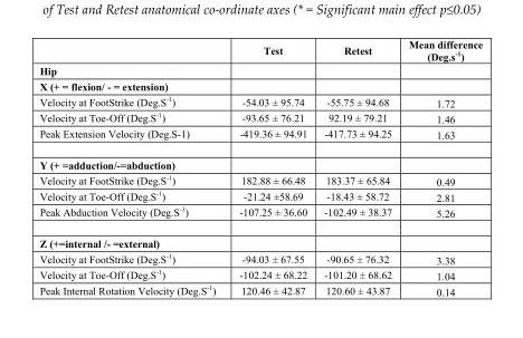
<table><thead><tr><td></td><td>Test</td><td>Retest</td><td>Mean difference (Deg.s<sup>-1</sup>)</td></tr></thead><tbody><tr><td colspan="4">Hip</td></tr><tr><td colspan="4">X (+ = flexion/ - = extension)</td></tr><tr><td>Velocity at FootStrike (Deg.S<sup>-1</sup>)</td><td>-54.03 ± 95.74</td><td>-55.75 ± 94.68</td><td>1.72</td></tr><tr><td>Velocity at Toe-Off (Deg.S<sup>-1</sup>)</td><td>-93.65 ± 76.21</td><td>92.19 ± 79.21</td><td>1.46</td></tr><tr><td>Peak Extension Velocity (Deg.S<sup>-1</sup>)</td><td>-419.36 ± 94.91</td><td>-417.73 ± 94.25</td><td>1.63</td></tr><tr><td colspan="4">Y (+ =adduction/-=abduction)</td></tr><tr><td>Velocity at FootStrike (Deg.S<sup>-1</sup>)</td><td>182.88 ± 66.48</td><td>183.37 ± 65.84</td><td>0.49</td></tr><tr><td>Velocity at Toe-Off (Deg.S<sup>-1</sup>)</td><td>-21.24 ±58.69</td><td>-18.43 ± 58.72</td><td>2.81</td></tr><tr><td>Peak Abduction Velocity (Deg.S<sup>-1</sup>)</td><td>-107.25 ± 36.60</td><td>-102.49 ± 38.37</td><td>5.26</td></tr><tr><td colspan="4">Z (+=internal /- =external)</td></tr><tr><td>Velocity at FootStrike (Deg.S<sup>-1</sup>)</td><td>-94.03 ± 67.55</td><td>-90.65 ± 76.32</td><td>3.38</td></tr><tr><td>Velocity at Toe-Off (Deg.S<sup>-1</sup>)</td><td>-102.24 ± 68.22</td><td>-101.20 ± 68.62</td><td>1.04</td></tr><tr><td>Peak Internal Rotation Velocity (Deg.S<sup>-1</sup>)</td><td>120.46 ± 42.87</td><td>120.60 ± 43.87</td><td>0.14</td></tr></tbody></table>